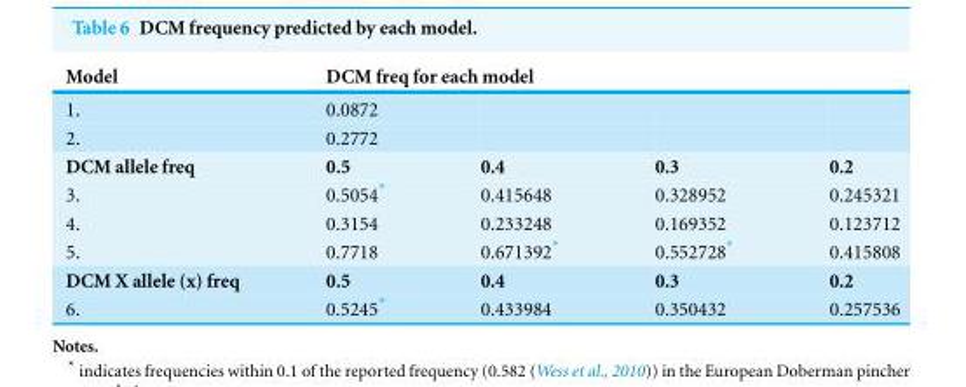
<table><thead><tr><td rowspan="2">Model 1.</td><td colspan="4">DCM freq for each model</td></tr><tr><td>0.0872</td><td></td><td></td><td></td></tr></thead><tbody><tr><td>2.</td><td>0.2772</td><td></td><td></td><td></td></tr><tr><td>DCM allele freq</td><td>0.5</td><td>0.4</td><td>0.3</td><td>0.2</td></tr><tr><td>3.</td><td>0.5054*</td><td>0.415648</td><td>0.328952</td><td>0.245321</td></tr><tr><td>4.</td><td>0.3154</td><td>0.233248</td><td>0.169352</td><td>0.123712</td></tr><tr><td>5.</td><td>0.7718</td><td>0.671392*</td><td>0.552728*</td><td>0.415808</td></tr><tr><td>DCM X allele (x) freq</td><td>0.5</td><td>0.4</td><td>0.3</td><td>0.2</td></tr><tr><td>6.</td><td>0.5245*</td><td>0.433984</td><td>0.350432</td><td>0.257536</td></tr></tbody></table>